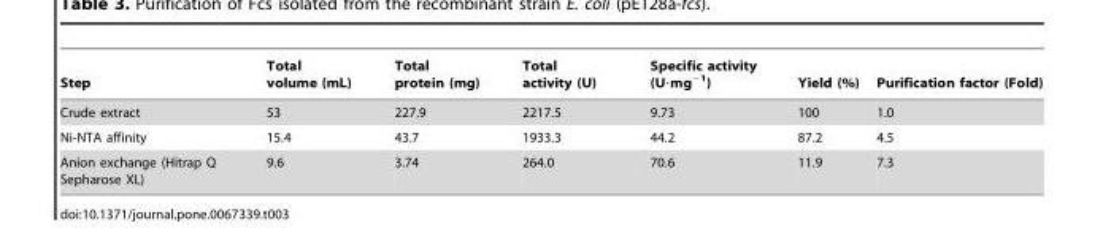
<table><thead><tr><td>Step</td><td>Total volume (mL)</td><td>Total protein (mg)</td><td>Total activity (U)</td><td>Specific activity (U·mg<sup>−1</sup>)</td><td>Yield (%)</td><td>Purification factor (Fold)</td></tr></thead><tbody><tr><td>Crude extract</td><td>53</td><td>227.9</td><td>2217.5</td><td>9.73</td><td>100</td><td>1.0</td></tr><tr><td>Ni-NTA affinity</td><td>15.4</td><td>43.7</td><td>1933.3</td><td>44.2</td><td>87.2</td><td>4.5</td></tr><tr><td>Anion exchange (Hitrap Q Sepharose XL)</td><td>9.6</td><td>3.74</td><td>264.0</td><td>70.6</td><td>11.9</td><td>7.3</td></tr></tbody></table>